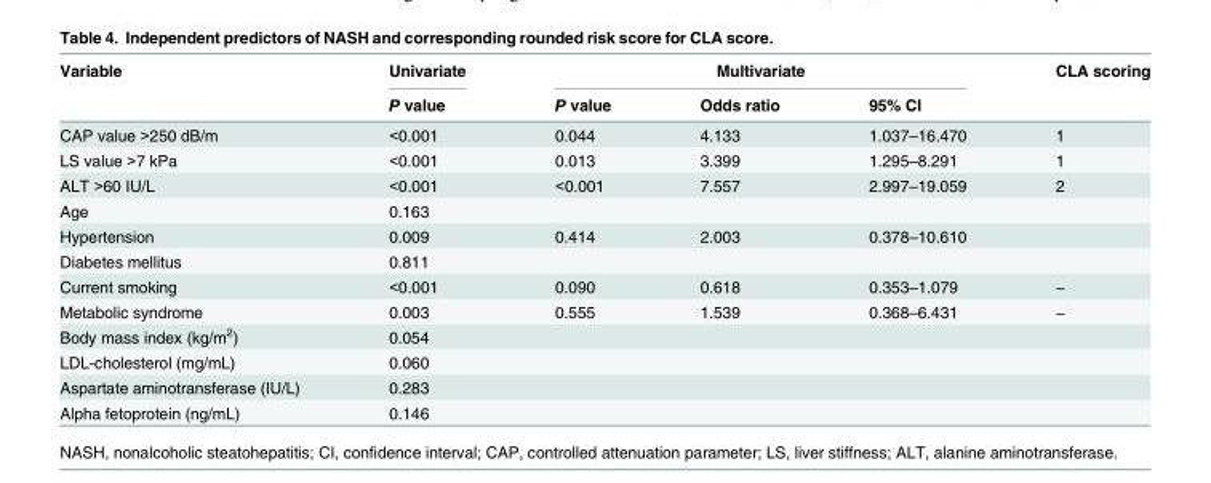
<table><thead><tr><td rowspan="2">Variable</td><td rowspan="2">Univariate P value</td><td colspan="3">Multivariate</td><td rowspan="2">CLA scoring</td></tr><tr><td>P value</td><td>Odds ratio</td><td>95% CI</td></tr></thead><tbody><tr><td>CAP value &gt;250 dB/m</td><td>&lt;0.001</td><td>0.044</td><td>4.133</td><td>1.037–16.470</td><td>1</td></tr><tr><td>LS value &gt;7 kPa</td><td>&lt;0.001</td><td>0.013</td><td>3.399</td><td>1.295–8.291</td><td>1</td></tr><tr><td>ALT &gt;60 IU/L</td><td>&lt;0.001</td><td>&lt;0.001</td><td>7.557</td><td>2.997–19.059</td><td>2</td></tr><tr><td>Age</td><td>0.163</td><td></td><td></td><td></td><td></td></tr><tr><td>Hypertension</td><td>0.009</td><td>0.414</td><td>2.003</td><td>0.378–10.610</td><td></td></tr><tr><td>Diabetes mellitus</td><td>0.811</td><td></td><td></td><td></td><td></td></tr><tr><td>Current smoking</td><td>&lt;0.001</td><td>0.090</td><td>0.618</td><td>0.353–1.079</td><td>−</td></tr><tr><td>Metabolic syndrome</td><td>0.003</td><td>0.555</td><td>1.539</td><td>0.368–6.431</td><td>−</td></tr><tr><td>Body mass index (kg/m<sup>2</sup>)</td><td>0.054</td><td></td><td></td><td></td><td></td></tr><tr><td>LDL-cholesterol (mg/mL)</td><td>0.060</td><td></td><td></td><td></td><td></td></tr><tr><td>Aspartate aminotransferase (IU/L)</td><td>0.283</td><td></td><td></td><td></td><td></td></tr><tr><td>Alpha fetoprotein (ng/mL)</td><td>0.146</td><td></td><td></td><td></td><td></td></tr></tbody></table>